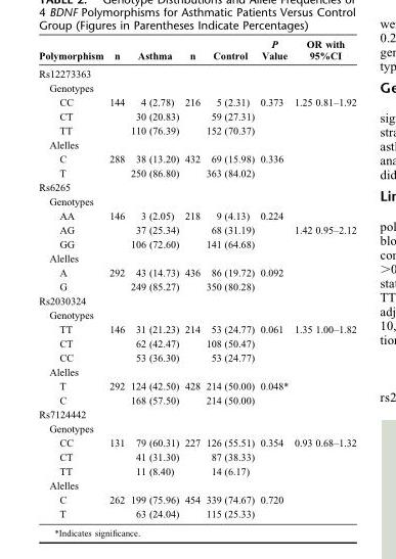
<table><thead><tr><td>Polymorphism</td><td>n</td><td>Asthma</td><td>n</td><td>Control</td><td>P Value</td><td>OR with 95%CI</td></tr></thead><tbody><tr><td colspan="7">Rs12273363</td></tr><tr><td colspan="7">Genotypes</td></tr><tr><td>CC</td><td>144</td><td>4 (2.78)</td><td>216</td><td>5 (2.31)</td><td>0.373</td><td>1.25 0.81–1.92</td></tr><tr><td>CT</td><td></td><td>30 (20.83)</td><td></td><td>59 (27.31)</td><td></td><td></td></tr><tr><td>TT</td><td></td><td>110 (76.39)</td><td></td><td>152 (70.37)</td><td></td><td></td></tr><tr><td colspan="7">Alelles</td></tr><tr><td>C</td><td>288</td><td>38 (13.20)</td><td>432</td><td>69 (15.98)</td><td>0.336</td><td></td></tr><tr><td>T</td><td></td><td>250 (86.80)</td><td></td><td>363 (84.02)</td><td></td><td></td></tr><tr><td colspan="7">Rs6265</td></tr><tr><td colspan="7">Genotypes</td></tr><tr><td>AA</td><td>146</td><td>3 (2.05)</td><td>218</td><td>9 (4.13)</td><td>0.224</td><td></td></tr><tr><td>AG</td><td></td><td>37 (25.34)</td><td></td><td>68 (31.19)</td><td></td><td>1.42 0.95–2.12</td></tr><tr><td>GG</td><td></td><td>106 (72.60)</td><td></td><td>141 (64.68)</td><td></td><td></td></tr><tr><td colspan="7">Alelles</td></tr><tr><td>A</td><td>292</td><td>43 (14.73)</td><td>436</td><td>86 (19.72)</td><td>0.092</td><td></td></tr><tr><td>G</td><td></td><td>249 (85.27)</td><td></td><td>350 (80.28)</td><td></td><td></td></tr><tr><td colspan="7">Rs2030324</td></tr><tr><td colspan="7">Genotypes</td></tr><tr><td>TT</td><td>146</td><td>31 (21.23)</td><td>214</td><td>53 (24.77)</td><td>0.061</td><td>1.35 1.00–1.82</td></tr><tr><td>CT</td><td></td><td>62 (42.47)</td><td></td><td>108 (50.47)</td><td></td><td></td></tr><tr><td>CC</td><td></td><td>53 (36.30)</td><td></td><td>53 (24.77)</td><td></td><td></td></tr><tr><td colspan="7">Alelles</td></tr><tr><td>T</td><td>292</td><td>124 (42.50)</td><td>428</td><td>214 (50.00)</td><td>0.048*</td><td></td></tr><tr><td>C</td><td></td><td>168 (57.50)</td><td></td><td>214 (50.00)</td><td></td><td></td></tr><tr><td colspan="7">Rs7124442</td></tr><tr><td colspan="7">Genotypes</td></tr><tr><td>CC</td><td>131</td><td>79 (60.31)</td><td>227</td><td>126 (55.51)</td><td>0.354</td><td>0.93 0.68–1.32</td></tr><tr><td>CT</td><td></td><td>41 (31.30)</td><td></td><td>87 (38.33)</td><td></td><td></td></tr><tr><td>TT</td><td></td><td>11 (8.40)</td><td></td><td>14 (6.17)</td><td></td><td></td></tr><tr><td colspan="7">Alelles</td></tr><tr><td>C</td><td>262</td><td>199 (75.96)</td><td>454</td><td>339 (74.67)</td><td>0.720</td><td></td></tr><tr><td>T</td><td></td><td>63 (24.04)</td><td></td><td>115 (25.33)</td><td></td><td></td></tr></tbody></table>